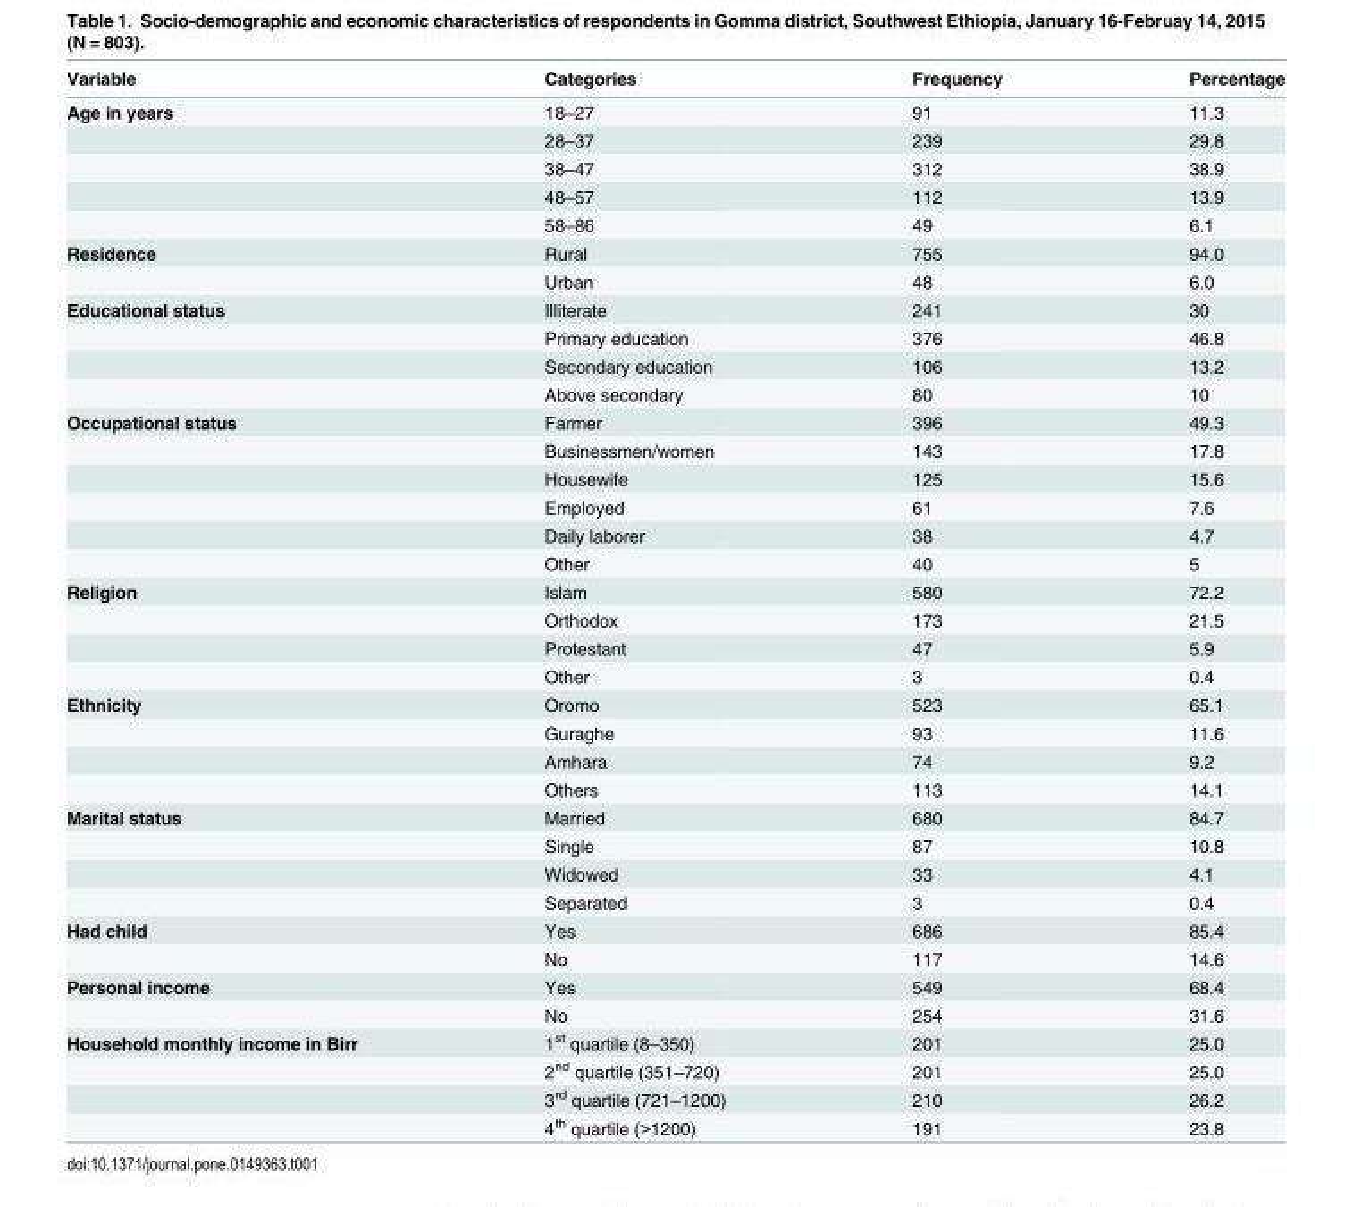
<table><thead><tr><td>Variable</td><td>Categories</td><td>Frequency</td><td>Percentage</td></tr></thead><tbody><tr><td rowspan="5">Age in years</td><td>18–27</td><td>91</td><td>11.3</td></tr><tr><td>28–37</td><td>239</td><td>29.8</td></tr><tr><td>38–47</td><td>312</td><td>38.9</td></tr><tr><td>48–57</td><td>112</td><td>13.9</td></tr><tr><td>58–86</td><td>49</td><td>6.1</td></tr><tr><td rowspan="2">Residence</td><td>Rural</td><td>755</td><td>94.0</td></tr><tr><td>Urban</td><td>48</td><td>6.0</td></tr><tr><td rowspan="4">Educational status</td><td>Illiterate</td><td>241</td><td>30</td></tr><tr><td>Primary education</td><td>376</td><td>46.8</td></tr><tr><td>Secondary education</td><td>106</td><td>13.2</td></tr><tr><td>Above secondary</td><td>80</td><td>10</td></tr><tr><td rowspan="6">Occupational status</td><td>Farmer</td><td>396</td><td>49.3</td></tr><tr><td>Businessmen/women</td><td>143</td><td>17.8</td></tr><tr><td>Housewife</td><td>125</td><td>15.6</td></tr><tr><td>Employed</td><td>61</td><td>7.6</td></tr><tr><td>Daily laborer</td><td>38</td><td>4.7</td></tr><tr><td>Other</td><td>40</td><td>5</td></tr><tr><td rowspan="4">Religion</td><td>Islam</td><td>580</td><td>72.2</td></tr><tr><td>Orthodox</td><td>173</td><td>21.5</td></tr><tr><td>Protestant</td><td>47</td><td>5.9</td></tr><tr><td>Other</td><td>3</td><td>0.4</td></tr><tr><td rowspan="4">Ethnicity</td><td>Oromo</td><td>523</td><td>65.1</td></tr><tr><td>Guraghe</td><td>93</td><td>11.6</td></tr><tr><td>Amhara</td><td>74</td><td>9.2</td></tr><tr><td>Others</td><td>113</td><td>14.1</td></tr><tr><td rowspan="4">Marital status</td><td>Married</td><td>680</td><td>84.7</td></tr><tr><td>Single</td><td>87</td><td>10.8</td></tr><tr><td>Widowed</td><td>33</td><td>4.1</td></tr><tr><td>Separated</td><td>3</td><td>0.4</td></tr><tr><td rowspan="2">Had child</td><td>Yes</td><td>686</td><td>85.4</td></tr><tr><td>No</td><td>117</td><td>14.6</td></tr><tr><td rowspan="2">Personal income</td><td>Yes</td><td>549</td><td>68.4</td></tr><tr><td>No</td><td>254</td><td>31.6</td></tr><tr><td rowspan="4">Household monthly income in Birr</td><td>1<sup>st</sup> quartile (8–350)</td><td>201</td><td>25.0</td></tr><tr><td>2<sup>nd</sup> quartile (351–720)</td><td>201</td><td>25.0</td></tr><tr><td>3<sup>rd</sup> quartile (721–1200)</td><td>210</td><td>26.2</td></tr><tr><td>4<sup>th</sup> quartile (&gt;1200)</td><td>191</td><td>23.8</td></tr></tbody></table>